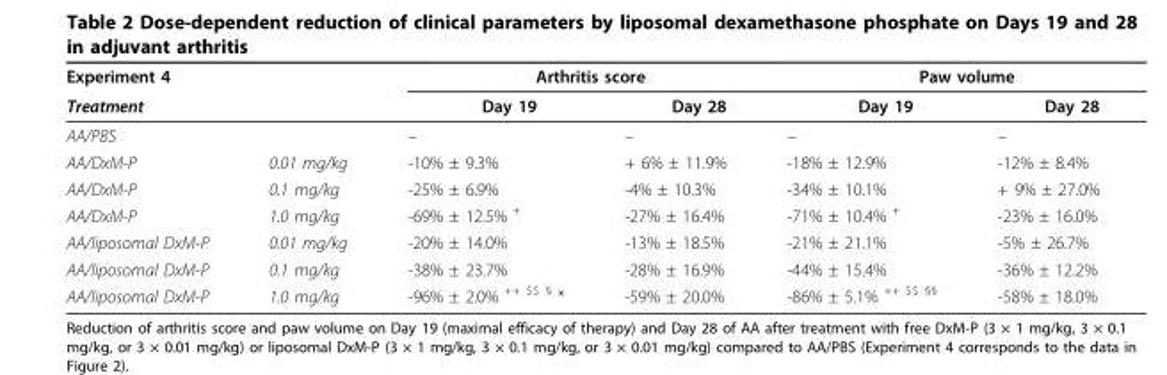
<table><thead><tr><td rowspan="2">Experiment 4 Treatment</td><td rowspan="2"></td><td colspan="2">Arthritis score</td><td colspan="2">Paw volume</td></tr><tr><td>Day 19</td><td>Day 28</td><td>Day 19</td><td>Day 28</td></tr></thead><tbody><tr><td>AA/PBS</td><td></td><td>–</td><td>–</td><td>–</td><td>–</td></tr><tr><td>AA/DxM-P</td><td>0.01 mg/kg</td><td>-10% ± 9.3%</td><td>+ 6% ± 11.9%</td><td>-18% ± 12.9%</td><td>-12% ± 8.4%</td></tr><tr><td>AA/DxM-P</td><td>0.1 mg/kg</td><td>-25% ± 6.9%</td><td>-4% ± 10.3%</td><td>-34% ± 10.1%</td><td>+ 9% ± 27.0%</td></tr><tr><td>AA/DxM-P</td><td>1.0 mg/kg</td><td>-69% ± 12.5% <sup>+</sup></td><td>-27% ± 16.4%</td><td>-71% ± 10.4% <sup>+</sup></td><td>-23% ± 16.0%</td></tr><tr><td>AA/liposomal DxM-P</td><td>0.01 mg/kg</td><td>-20% ± 14.0%</td><td>-13% ± 18.5%</td><td>-21% ± 21.1%</td><td>-5% ± 26.7%</td></tr><tr><td>AA/liposomal DxM-P</td><td>0.1 mg/kg</td><td>-38% ± 23.7%</td><td>-28% ± 16.9%</td><td>-44% ± 15.4%</td><td>-36% ± 12.2%</td></tr><tr><td>AA/liposomal DxM-P</td><td>1.0 mg/kg</td><td>-96% ± 2.0% <sup>++ $$ §</sup> *</td><td>-59% ± 20.0%</td><td>-86% ± 5.1% <sup>++ $$ §§</sup></td><td>-58% ± 18.0%</td></tr></tbody></table>